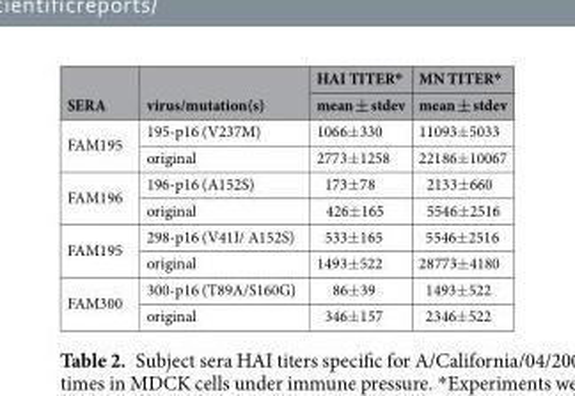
<table><thead><tr><td rowspan="2">SERA</td><td rowspan="2">virus/mutation(s)</td><td rowspan="2">HAI TITER* mean ± stdev</td><td rowspan="2">MN TITER* mean ± stdev</td></tr><tr></tr></thead><tbody><tr><td rowspan="2">FAM195</td><td>195-p16 (V237M)</td><td>1066±330</td><td>11093±5033</td></tr><tr><td>original</td><td>2773±1258</td><td>22186±10067</td></tr><tr><td rowspan="2">FAM196</td><td>196-p16 (A152S)</td><td>173±78</td><td>2133±660</td></tr><tr><td>original</td><td>426±165</td><td>5546±2516</td></tr><tr><td rowspan="2">FAM195</td><td>298-p16 (V41I/ A152S)</td><td>533±165</td><td>5546±2516</td></tr><tr><td>original</td><td>1493±522</td><td>28773±4180</td></tr><tr><td rowspan="2">FAM300</td><td>300-p16 (T89A/S160G)</td><td>86±39</td><td>1493±522</td></tr><tr><td>original</td><td>346±157</td><td>2346±522</td></tr></tbody></table>